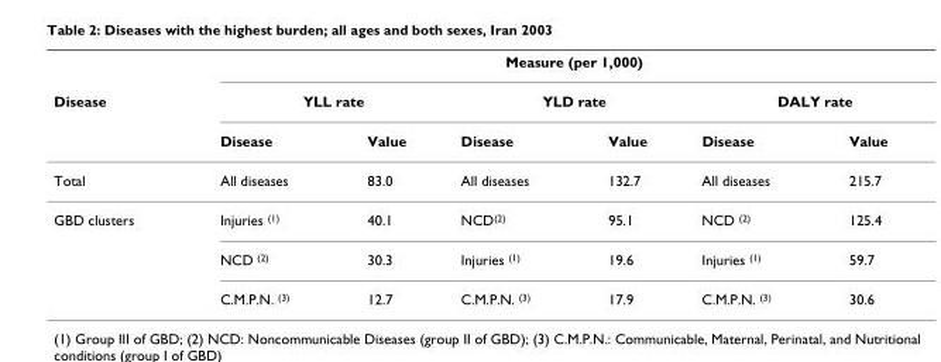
<table><thead><tr><td rowspan="3">Disease</td><td colspan="6">Measure (per 1,000)</td></tr><tr><td colspan="2">YLL rate</td><td colspan="2">YLD rate</td><td colspan="2">DALY rate</td></tr><tr><td>Disease</td><td>Value</td><td>Disease</td><td>Value</td><td>Disease</td><td>Value</td></tr></thead><tbody><tr><td>Total</td><td>All diseases</td><td>83.0</td><td>All diseases</td><td>132.7</td><td>All diseases</td><td>215.7</td></tr><tr><td rowspan="3">GBD clusters</td><td>Injuries <sup>(1)</sup></td><td>40.1</td><td>NCD<sup>(2)</sup></td><td>95.1</td><td>NCD <sup>(2)</sup></td><td>125.4</td></tr><tr><td>NCD <sup>(2)</sup></td><td>30.3</td><td>Injuries <sup>(1)</sup></td><td>19.6</td><td>Injuries <sup>(1)</sup></td><td>59.7</td></tr><tr><td>C.M.P.N. <sup>(3)</sup></td><td>12.7</td><td>C.M.P.N. <sup>(3)</sup></td><td>17.9</td><td>C.M.P.N. <sup>(3)</sup></td><td>30.6</td></tr></tbody></table>